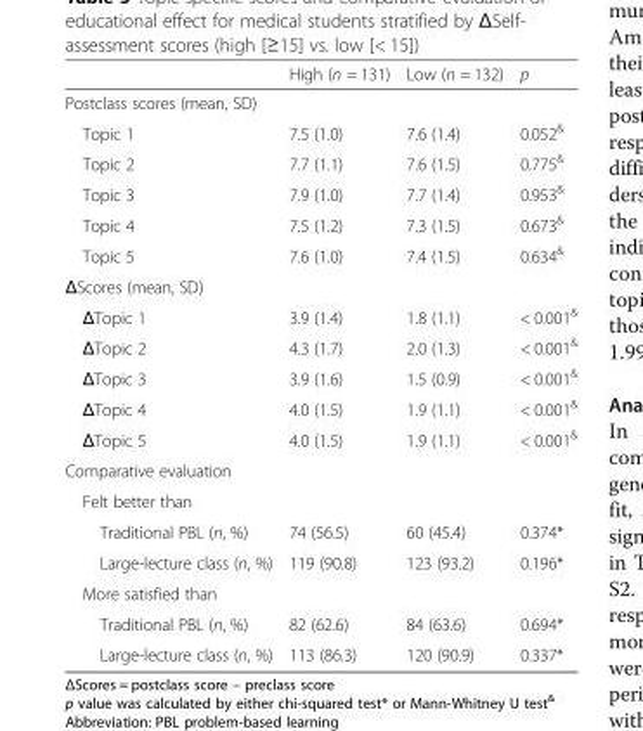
<table><thead><tr><td></td><td>High (n = 131)</td><td>Low (n = 132)</td><td>p</td></tr></thead><tbody><tr><td colspan="4">Postclass scores (mean, SD)</td></tr><tr><td>Topic 1</td><td>7.5 (1.0)</td><td>7.6 (1.4)</td><td>0.052<sup>&amp;</sup></td></tr><tr><td>Topic 2</td><td>7.7 (1.1)</td><td>7.6 (1.5)</td><td>0.775<sup>&amp;</sup></td></tr><tr><td>Topic 3</td><td>7.9 (1.0)</td><td>7.7 (1.4)</td><td>0.953<sup>&amp;</sup></td></tr><tr><td>Topic 4</td><td>7.5 (1.2)</td><td>7.3 (1.5)</td><td>0.673<sup>&amp;</sup></td></tr><tr><td>Topic 5</td><td>7.6 (1.0)</td><td>7.4 (1.5)</td><td>0.634<sup>&amp;</sup></td></tr><tr><td colspan="4">ΔScores (mean, SD)</td></tr><tr><td>ΔTopic 1</td><td>3.9 (1.4)</td><td>1.8 (1.1)</td><td>&lt; 0.001<sup>&amp;</sup></td></tr><tr><td>ΔTopic 2</td><td>4.3 (1.7)</td><td>2.0 (1.3)</td><td>&lt; 0.001<sup>&amp;</sup></td></tr><tr><td>ΔTopic 3</td><td>3.9 (1.6)</td><td>1.5 (0.9)</td><td>&lt; 0.001<sup>&amp;</sup></td></tr><tr><td>ΔTopic 4</td><td>4.0 (1.5)</td><td>1.9 (1.1)</td><td>&lt; 0.001<sup>&amp;</sup></td></tr><tr><td>ΔTopic 5</td><td>4.0 (1.5)</td><td>1.9 (1.1)</td><td>&lt; 0.001<sup>&amp;</sup></td></tr><tr><td colspan="4">Comparative evaluation</td></tr><tr><td colspan="4">Felt better than</td></tr><tr><td>Traditional PBL (n, %)</td><td>74 (56.5)</td><td>60 (45.4)</td><td>0.374*</td></tr><tr><td>Large-lecture class (n, %)</td><td>119 (90.8)</td><td>123 (93.2)</td><td>0.196*</td></tr><tr><td colspan="4">More satisfied than</td></tr><tr><td>Traditional PBL (n, %)</td><td>82 (62.6)</td><td>84 (63.6)</td><td>0.694*</td></tr><tr><td>Large-lecture class (n, %)</td><td>113 (86.3)</td><td>120 (90.9)</td><td>0.337*</td></tr></tbody></table>